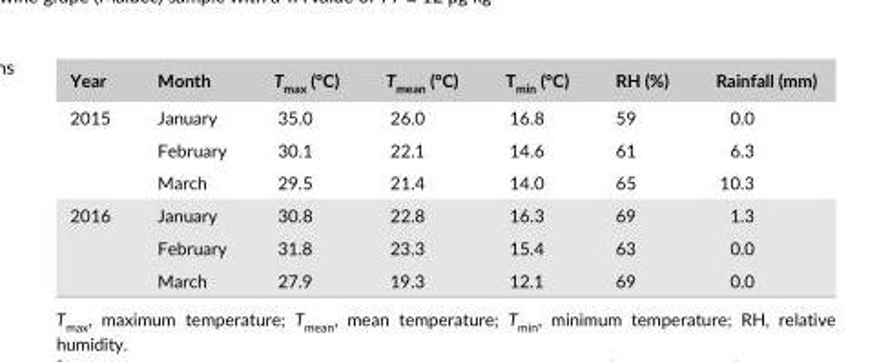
<table><thead><tr><td>Year</td><td>Month</td><td>T<sub>max</sub> (°C)</td><td>T<sub>mean</sub> (°C)</td><td>T<sub>min</sub> (°C)</td><td>RH (%)</td><td>Rainfall (mm)</td></tr></thead><tbody><tr><td rowspan="3">2015</td><td>January</td><td>35.0</td><td>26.0</td><td>16.8</td><td>59</td><td>0.0</td></tr><tr><td>February</td><td>30.1</td><td>22.1</td><td>14.6</td><td>61</td><td>6.3</td></tr><tr><td>March</td><td>29.5</td><td>21.4</td><td>14.0</td><td>65</td><td>10.3</td></tr><tr><td rowspan="3">2016</td><td>January</td><td>30.8</td><td>22.8</td><td>16.3</td><td>69</td><td>1.3</td></tr><tr><td>February</td><td>31.8</td><td>23.3</td><td>15.4</td><td>63</td><td>0.0</td></tr><tr><td>March</td><td>27.9</td><td>19.3</td><td>12.1</td><td>69</td><td>0.0</td></tr></tbody></table>